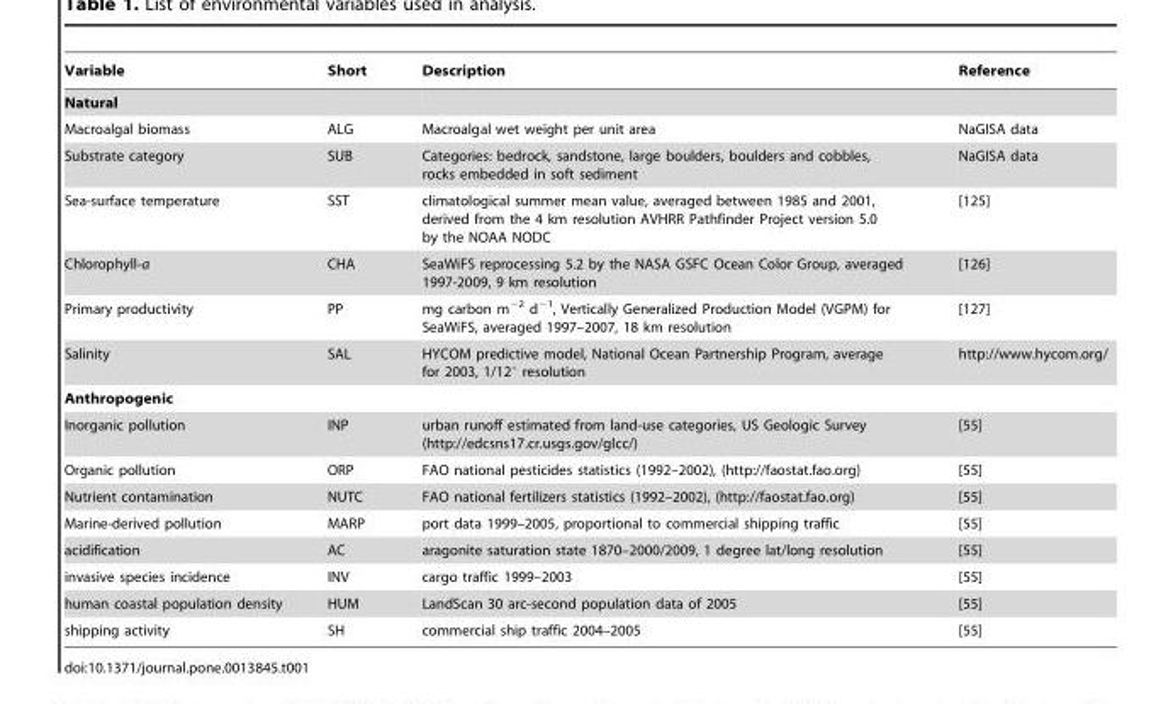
<table><thead><tr><td>Variable</td><td>Short</td><td>Description</td><td>Reference</td></tr></thead><tbody><tr><td colspan="4">Natural</td></tr><tr><td>Macroalgal biomass</td><td>ALG</td><td>Macroalgal wet weight per unit area</td><td>NaGISA data</td></tr><tr><td>Substrate category</td><td>SUB</td><td>Categories: bedrock, sandstone, large boulders, boulders and cobbles, rocks embedded in soft sediment</td><td>NaGISA data</td></tr><tr><td>Sea-surface temperature</td><td>SST</td><td>climatological summer mean value, averaged between 1985 and 2001, derived from the 4 km resolution AVHRR Pathfinder Project version 5.0 by the NOAA NODC</td><td>[125]</td></tr><tr><td>Chlorophyll-a</td><td>CHA</td><td>SeaWiFS reprocessing 5.2 by the NASA GSFC Ocean Color Group, averaged 1997-2009, 9 km resolution</td><td>[126]</td></tr><tr><td>Primary productivity</td><td>PP</td><td>mg carbon m<sup>−2</sup> d<sup>−1</sup>, Vertically Generalized Production Model (VGPM) for SeaWiFS, averaged 1997–2007, 18 km resolution</td><td>[127]</td></tr><tr><td>Salinity</td><td>SAL</td><td>HYCOM predictive model, National Ocean Partnership Program, average for 2003, 1/12° resolution</td><td>http://www.hycom.org/</td></tr><tr><td colspan="4">Anthropogenic</td></tr><tr><td>Inorganic pollution</td><td>INP</td><td>urban runoff estimated from land-use categories, US Geologic Survey (http://edcsns17.cr.usgs.gov/glcc/)</td><td>[55]</td></tr><tr><td>Organic pollution</td><td>ORP</td><td>FAO national pesticides statistics (1992–2002), (http://faostat.fao.org)</td><td>[55]</td></tr><tr><td>Nutrient contamination</td><td>NUTC</td><td>FAO national fertilizers statistics (1992–2002), (http://faostat.fao.org)</td><td>[55]</td></tr><tr><td>Marine-derived pollution</td><td>MARP</td><td>port data 1999–2005, proportional to commercial shipping traffic</td><td>[55]</td></tr><tr><td>acidification</td><td>AC</td><td>aragonite saturation state 1870–2000/2009, 1 degree lat/long resolution</td><td>[55]</td></tr><tr><td>invasive species incidence</td><td>INV</td><td>cargo traffic 1999–2003</td><td>[55]</td></tr><tr><td>human coastal population density</td><td>HUM</td><td>LandScan 30 arc-second population data of 2005</td><td>[55]</td></tr><tr><td>shipping activity</td><td>SH</td><td>commercial ship traffic 2004–2005</td><td>[55]</td></tr></tbody></table>